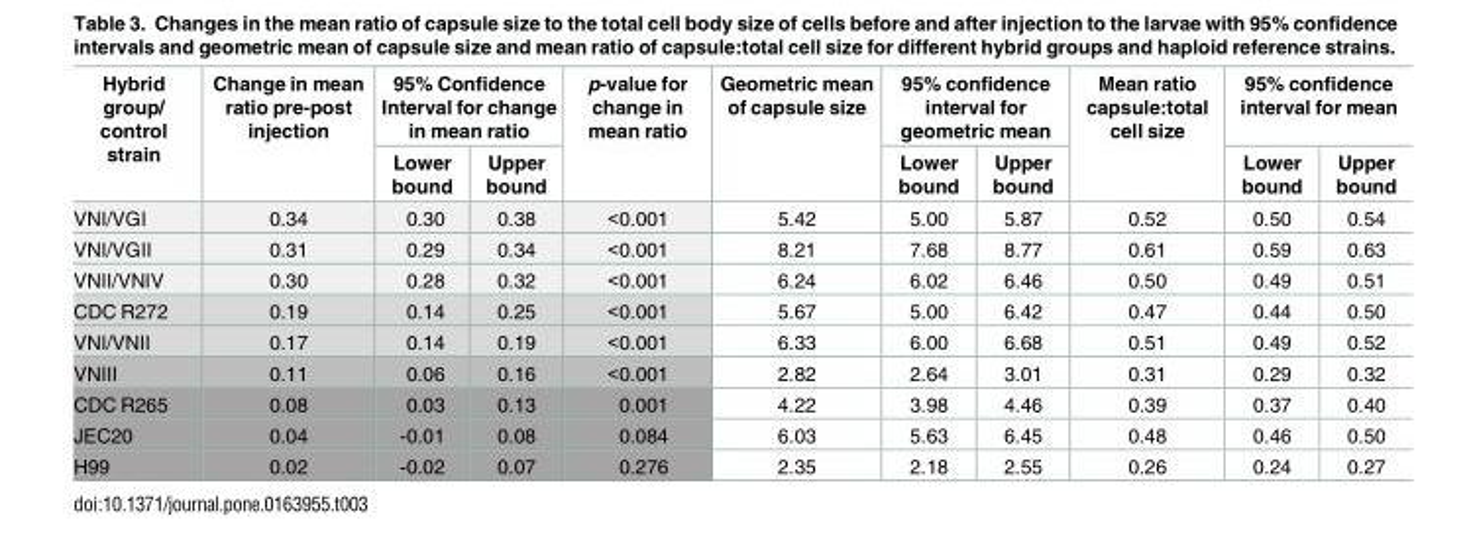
<table><thead><tr><td rowspan="2">Hybrid group/ control strain</td><td rowspan="2">Change in mean ratio pre-post injection</td><td colspan="2">95% Confidence Interval for change in mean ratio</td><td rowspan="2">p-value for change in mean ratio</td><td rowspan="2">Geometric mean of capsule size</td><td colspan="2">95% confidence interval for geometric mean</td><td rowspan="2">Mean ratio capsule:total cell size</td><td colspan="2">95% confidence interval for mean</td></tr><tr><td>Lower bound</td><td>Upper bound</td><td>Lower bound</td><td>Upper bound</td><td>Lower bound</td><td>Upper bound</td></tr></thead><tbody><tr><td>VNI/VGI</td><td>0.34</td><td>0.30</td><td>0.38</td><td>&lt;0.001</td><td>5.42</td><td>5.00</td><td>5.87</td><td>0.52</td><td>0.50</td><td>0.54</td></tr><tr><td>VNI/VGII</td><td>0.31</td><td>0.29</td><td>0.34</td><td>&lt;0.001</td><td>8.21</td><td>7.68</td><td>8.77</td><td>0.61</td><td>0.59</td><td>0.63</td></tr><tr><td>VNII/VNIV</td><td>0.30</td><td>0.28</td><td>0.32</td><td>&lt;0.001</td><td>6.24</td><td>6.02</td><td>6.46</td><td>0.50</td><td>0.49</td><td>0.51</td></tr><tr><td>CDC R272</td><td>0.19</td><td>0.14</td><td>0.25</td><td>&lt;0.001</td><td>5.67</td><td>5.00</td><td>6.42</td><td>0.47</td><td>0.44</td><td>0.50</td></tr><tr><td>VNI/VNII</td><td>0.17</td><td>0.14</td><td>0.19</td><td>&lt;0.001</td><td>6.33</td><td>6.00</td><td>6.68</td><td>0.51</td><td>0.49</td><td>0.52</td></tr><tr><td>VNIII</td><td>0.11</td><td>0.06</td><td>0.16</td><td>&lt;0.001</td><td>2.82</td><td>2.64</td><td>3.01</td><td>0.31</td><td>0.29</td><td>0.32</td></tr><tr><td>CDC R265</td><td>0.08</td><td>0.03</td><td>0.13</td><td>0.001</td><td>4.22</td><td>3.98</td><td>4.46</td><td>0.39</td><td>0.37</td><td>0.40</td></tr><tr><td>JEC20</td><td>0.04</td><td>-0.01</td><td>0.08</td><td>0.084</td><td>6.03</td><td>5.63</td><td>6.45</td><td>0.48</td><td>0.46</td><td>0.50</td></tr><tr><td>H99</td><td>0.02</td><td>-0.02</td><td>0.07</td><td>0.276</td><td>2.35</td><td>2.18</td><td>2.55</td><td>0.26</td><td>0.24</td><td>0.27</td></tr></tbody></table>